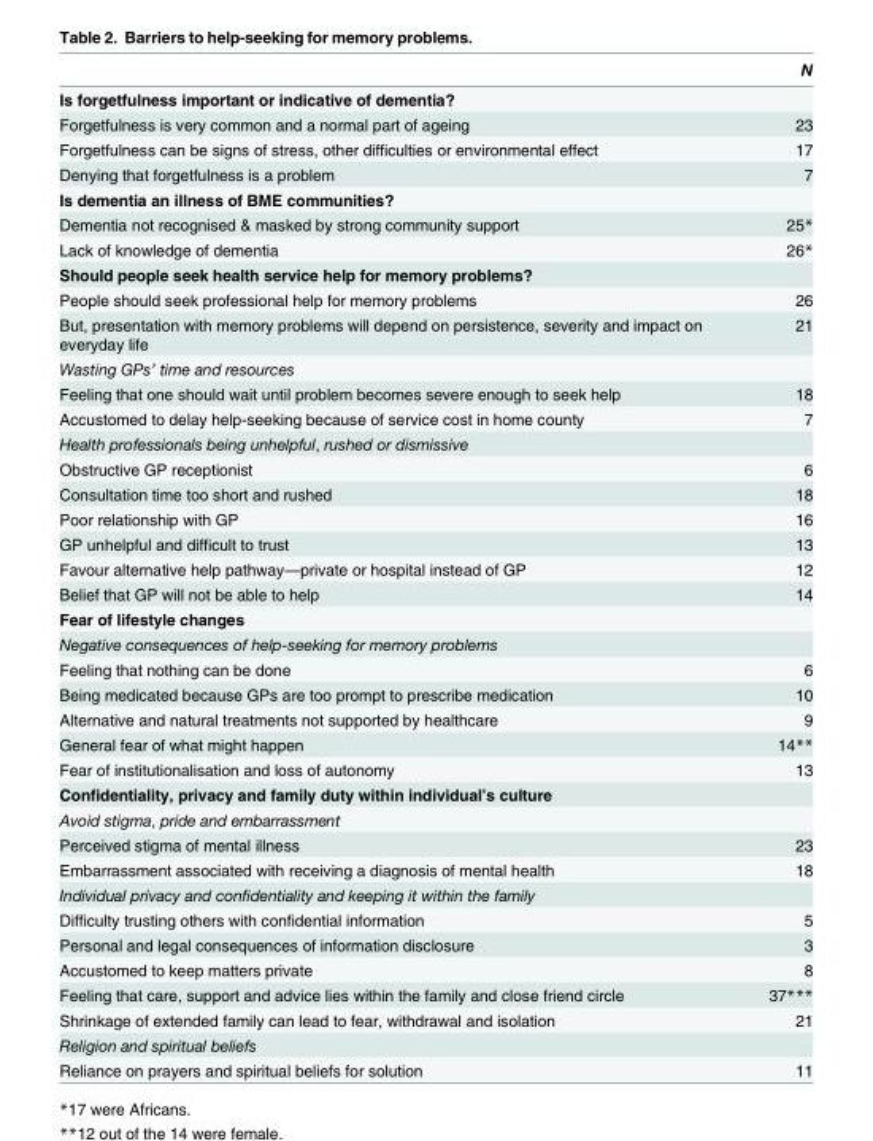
<table><thead><tr><td></td><td>N</td></tr></thead><tbody><tr><td colspan="2">Is forgetfulness important or indicative of dementia?</td></tr><tr><td>Forgetfulness is very common and a normal part of ageing</td><td>23</td></tr><tr><td>Forgetfulness can be signs of stress, other difficulties or environmental effect</td><td>17</td></tr><tr><td>Denying that forgetfulness is a problem</td><td>7</td></tr><tr><td colspan="2">Is dementia an illness of BME communities?</td></tr><tr><td>Dementia not recognised &amp; masked by strong community support</td><td>25*</td></tr><tr><td>Lack of knowledge of dementia</td><td>26*</td></tr><tr><td colspan="2">Should people seek health service help for memory problems?</td></tr><tr><td>People should seek professional help for memory problems</td><td>26</td></tr><tr><td>But, presentation with memory problems will depend on persistence, severity and impact on everyday life</td><td>21</td></tr><tr><td colspan="2">Wasting GPs’ time and resources</td></tr><tr><td>Feeling that one should wait until problem becomes severe enough to seek help</td><td>18</td></tr><tr><td>Accustomed to delay help-seeking because of service cost in home county</td><td>7</td></tr><tr><td colspan="2">Health professionals being unhelpful, rushed or dismissive</td></tr><tr><td>Obstructive GP receptionist</td><td>6</td></tr><tr><td>Consultation time too short and rushed</td><td>18</td></tr><tr><td>Poor relationship with GP</td><td>16</td></tr><tr><td>GP unhelpful and difficult to trust</td><td>13</td></tr><tr><td>Favour alternative help pathway—private or hospital instead of GP</td><td>12</td></tr><tr><td>Belief that GP will not be able to help</td><td>14</td></tr><tr><td colspan="2">Fear of lifestyle changes</td></tr><tr><td colspan="2">Negative consequences of help-seeking for memory problems</td></tr><tr><td>Feeling that nothing can be done</td><td>6</td></tr><tr><td>Being medicated because GPs are too prompt to prescribe medication</td><td>10</td></tr><tr><td>Alternative and natural treatments not supported by healthcare</td><td>9</td></tr><tr><td>General fear of what might happen</td><td>14**</td></tr><tr><td>Fear of institutionalisation and loss of autonomy</td><td>13</td></tr><tr><td colspan="2">Confidentiality, privacy and family duty within individual’s culture</td></tr><tr><td colspan="2">Avoid stigma, pride and embarrassment</td></tr><tr><td>Perceived stigma of mental illness</td><td>23</td></tr><tr><td>Embarrassment associated with receiving a diagnosis of mental health</td><td>18</td></tr><tr><td colspan="2">Individual privacy and confidentiality and keeping it within the family</td></tr><tr><td>Difficulty trusting others with confidential information</td><td>5</td></tr><tr><td>Personal and legal consequences of information disclosure</td><td>3</td></tr><tr><td>Accustomed to keep matters private</td><td>8</td></tr><tr><td>Feeling that care, support and advice lies within the family and close friend circle</td><td>37***</td></tr><tr><td>Shrinkage of extended family can lead to fear, withdrawal and isolation</td><td>21</td></tr><tr><td colspan="2">Religion and spiritual beliefs</td></tr><tr><td>Reliance on prayers and spiritual beliefs for solution</td><td>11</td></tr></tbody></table>